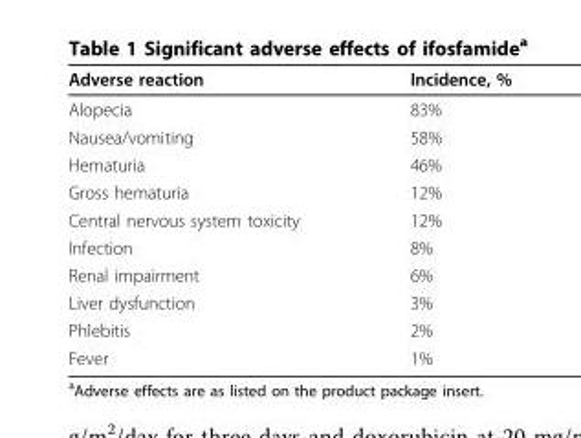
<table><thead><tr><td>Adverse reaction</td><td>Incidence, %</td></tr></thead><tbody><tr><td>Alopecia</td><td>83%</td></tr><tr><td>Nausea/vomiting</td><td>58%</td></tr><tr><td>Hematuria</td><td>46%</td></tr><tr><td>Gross hematuria</td><td>12%</td></tr><tr><td>Central nervous system toxicity</td><td>12%</td></tr><tr><td>Infection</td><td>8%</td></tr><tr><td>Renal impairment</td><td>6%</td></tr><tr><td>Liver dysfunction</td><td>3%</td></tr><tr><td>Phlebitis</td><td>2%</td></tr><tr><td>Fever</td><td>1%</td></tr></tbody></table>